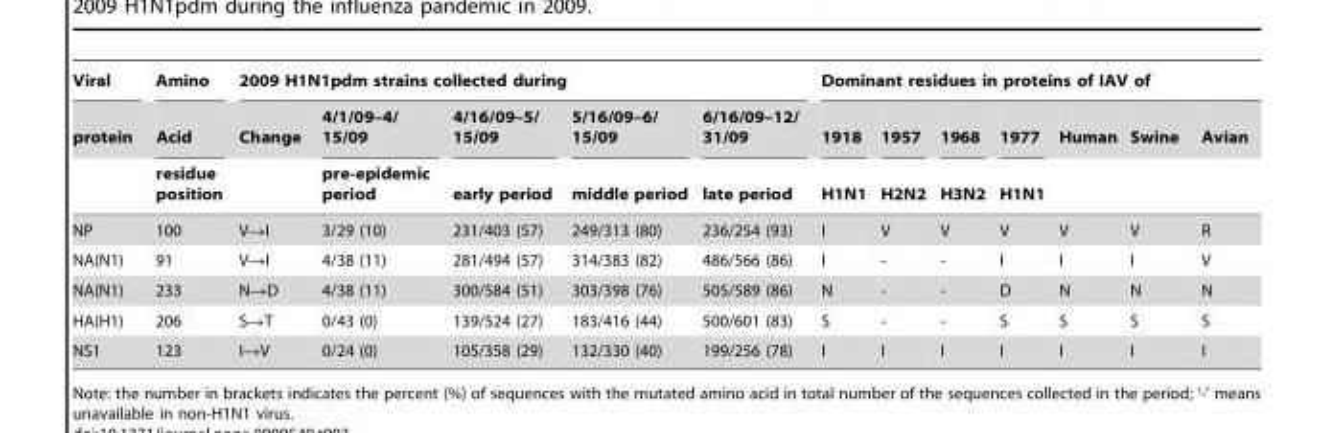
<table><thead><tr><td rowspan="3">Viral protein</td><td rowspan="3">Amino Acid residue position</td><td colspan="5">2009 H1N1pdm strains collected during</td><td colspan="7">Dominant residues in proteins of IAV of</td></tr><tr><td rowspan="2">Change</td><td rowspan="2">4/1/09–4/ 15/09 pre-epidemic period</td><td rowspan="2">4/16/09–5/ 15/09 early period</td><td rowspan="2">5/16/09–6/ 15/09 middle period</td><td rowspan="2">6/16/09–12/ 31/09 late period</td><td rowspan="2">1918 H1N1</td><td rowspan="2">1957 H2N2</td><td rowspan="2">1968 H3N2</td><td rowspan="2">1977 H1N1</td><td rowspan="2">Human</td><td rowspan="2">Swine</td><td rowspan="2">Avian</td></tr><tr></tr></thead><tbody><tr><td>NP</td><td>100</td><td>V→I</td><td>3/29 (10)</td><td>231/403 (57)</td><td>249/313 (80)</td><td>236/254 (93)</td><td>I</td><td>V</td><td>V</td><td>V</td><td>V</td><td>V</td><td>R</td></tr><tr><td>NA(N1)</td><td>91</td><td>V→I</td><td>4/38 (11)</td><td>281/494 (57)</td><td>314/383 (82)</td><td>486/566 (86)</td><td>I</td><td>-</td><td>-</td><td>I</td><td>I</td><td>I</td><td>V</td></tr><tr><td>NA(N1)</td><td>233</td><td>N→D</td><td>4/38 (11)</td><td>300/584 (51)</td><td>303/398 (76)</td><td>505/589 (86)</td><td>N</td><td>-</td><td>-</td><td>D</td><td>N</td><td>N</td><td>N</td></tr><tr><td>HA(H1)</td><td>206</td><td>S→T</td><td>0/43 (0)</td><td>139/524 (27)</td><td>183/416 (44)</td><td>500/601 (83)</td><td>S</td><td>-</td><td>-</td><td>S</td><td>S</td><td>S</td><td>S</td></tr><tr><td>NS1</td><td>123</td><td>I→V</td><td>0/24 (0)</td><td>105/358 (29)</td><td>132/330 (40)</td><td>199/256 (78)</td><td>I</td><td>I</td><td>I</td><td>I</td><td>I</td><td>I</td><td>I</td></tr></tbody></table>